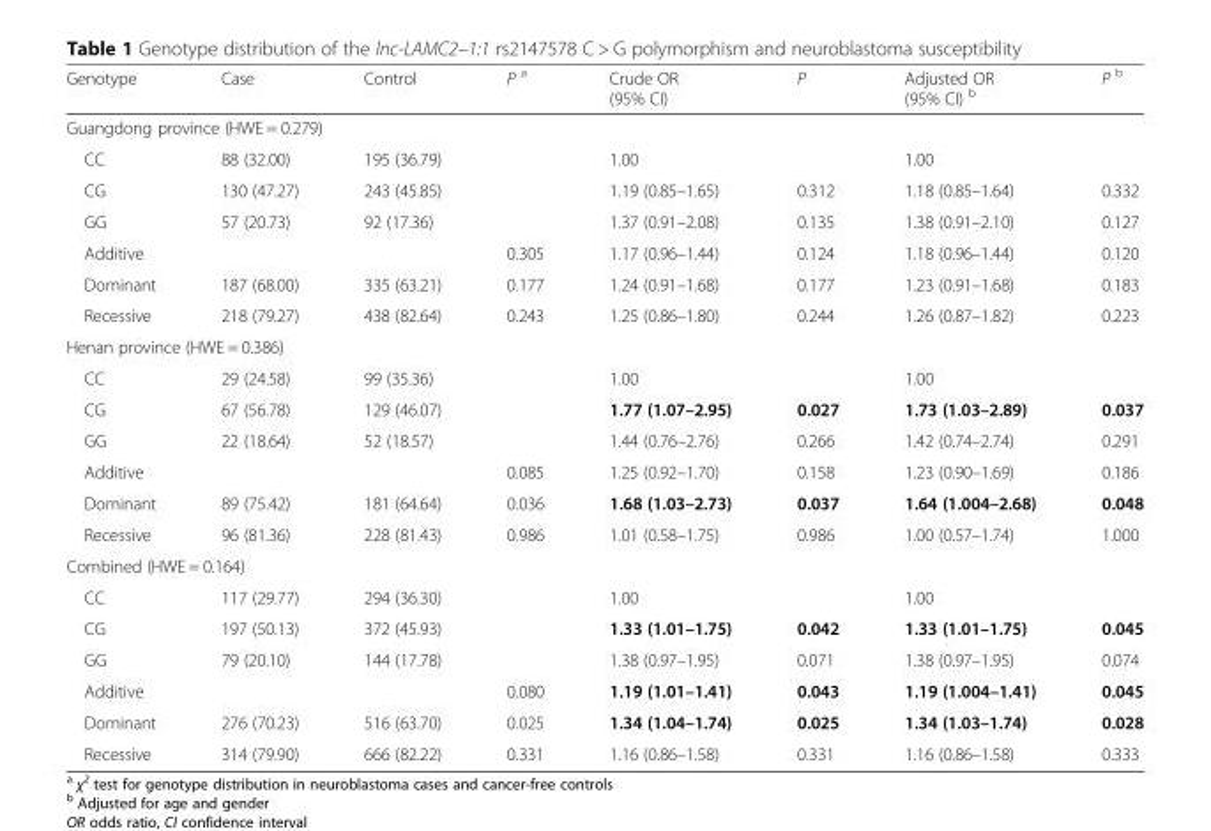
<table><thead><tr><td>Genotype</td><td>Case</td><td>Control</td><td>P <sup>a</sup></td><td>Crude OR (95% CI)</td><td>P</td><td>Adjusted OR (95% CI) <sup>b</sup></td><td>P <sup>b</sup></td></tr></thead><tbody><tr><td colspan="8">Guangdong province (HWE = 0.279)</td></tr><tr><td>CC</td><td>88 (32.00)</td><td>195 (36.79)</td><td></td><td>1.00</td><td></td><td>1.00</td><td></td></tr><tr><td>CG</td><td>130 (47.27)</td><td>243 (45.85)</td><td></td><td>1.19 (0.85–1.65)</td><td>0.312</td><td>1.18 (0.85–1.64)</td><td>0.332</td></tr><tr><td>GG</td><td>57 (20.73)</td><td>92 (17.36)</td><td></td><td>1.37 (0.91–2.08)</td><td>0.135</td><td>1.38 (0.91–2.10)</td><td>0.127</td></tr><tr><td>Additive</td><td></td><td></td><td>0.305</td><td>1.17 (0.96–1.44)</td><td>0.124</td><td>1.18 (0.96–1.44)</td><td>0.120</td></tr><tr><td>Dominant</td><td>187 (68.00)</td><td>335 (63.21)</td><td>0.177</td><td>1.24 (0.91–1.68)</td><td>0.177</td><td>1.23 (0.91–1.68)</td><td>0.183</td></tr><tr><td>Recessive</td><td>218 (79.27)</td><td>438 (82.64)</td><td>0.243</td><td>1.25 (0.86–1.80)</td><td>0.244</td><td>1.26 (0.87–1.82)</td><td>0.223</td></tr><tr><td colspan="8">Henan province (HWE = 0.386)</td></tr><tr><td>CC</td><td>29 (24.58)</td><td>99 (35.36)</td><td></td><td>1.00</td><td></td><td>1.00</td><td></td></tr><tr><td>CG</td><td>67 (56.78)</td><td>129 (46.07)</td><td></td><td>1.77 (1.07–2.95)</td><td>0.027</td><td>1.73 (1.03–2.89)</td><td>0.037</td></tr><tr><td>GG</td><td>22 (18.64)</td><td>52 (18.57)</td><td></td><td>1.44 (0.76–2.76)</td><td>0.266</td><td>1.42 (0.74–2.74)</td><td>0.291</td></tr><tr><td>Additive</td><td></td><td></td><td>0.085</td><td>1.25 (0.92–1.70)</td><td>0.158</td><td>1.23 (0.90–1.69)</td><td>0.186</td></tr><tr><td>Dominant</td><td>89 (75.42)</td><td>181 (64.64)</td><td>0.036</td><td>1.68 (1.03–2.73)</td><td>0.037</td><td>1.64 (1.004–2.68)</td><td>0.048</td></tr><tr><td>Recessive</td><td>96 (81.36)</td><td>228 (81.43)</td><td>0.986</td><td>1.01 (0.58–1.75)</td><td>0.986</td><td>1.00 (0.57–1.74)</td><td>1.000</td></tr><tr><td colspan="8">Combined (HWE = 0.164)</td></tr><tr><td>CC</td><td>117 (29.77)</td><td>294 (36.30)</td><td></td><td>1.00</td><td></td><td>1.00</td><td></td></tr><tr><td>CG</td><td>197 (50.13)</td><td>372 (45.93)</td><td></td><td>1.33 (1.01–1.75)</td><td>0.042</td><td>1.33 (1.01–1.75)</td><td>0.045</td></tr><tr><td>GG</td><td>79 (20.10)</td><td>144 (17.78)</td><td></td><td>1.38 (0.97–1.95)</td><td>0.071</td><td>1.38 (0.97–1.95)</td><td>0.074</td></tr><tr><td>Additive</td><td></td><td></td><td>0.080</td><td>1.19 (1.01–1.41)</td><td>0.043</td><td>1.19 (1.004–1.41)</td><td>0.045</td></tr><tr><td>Dominant</td><td>276 (70.23)</td><td>516 (63.70)</td><td>0.025</td><td>1.34 (1.04–1.74)</td><td>0.025</td><td>1.34 (1.03–1.74)</td><td>0.028</td></tr><tr><td>Recessive</td><td>314 (79.90)</td><td>666 (82.22)</td><td>0.331</td><td>1.16 (0.86–1.58)</td><td>0.331</td><td>1.16 (0.86–1.58)</td><td>0.333</td></tr></tbody></table>